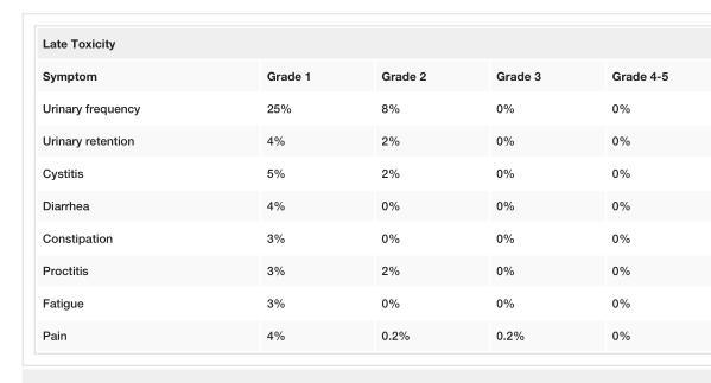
<table><tbody><tr><td colspan="5">Late Toxicity</td></tr><tr><td>Symptom</td><td>Grade 1</td><td>Grade 2</td><td>Grade 3</td><td>Grade 4-5</td></tr><tr><td>Urinary frequency</td><td>25%</td><td>8%</td><td>0%</td><td>0%</td></tr><tr><td>Urinary retention</td><td>4%</td><td>2%</td><td>0%</td><td>0%</td></tr><tr><td>Cystitis</td><td>5%</td><td>2%</td><td>0%</td><td>0%</td></tr><tr><td>Diarrhea</td><td>4%</td><td>0%</td><td>0%</td><td>0%</td></tr><tr><td>Constipation</td><td>3%</td><td>0%</td><td>0%</td><td>0%</td></tr><tr><td>Proctitis</td><td>3%</td><td>2%</td><td>0%</td><td>0%</td></tr><tr><td>Fatigue</td><td>3%</td><td>0%</td><td>0%</td><td>0%</td></tr><tr><td>Pain</td><td>4%</td><td>0.2%</td><td>0.2%</td><td>0%</td></tr></tbody></table>